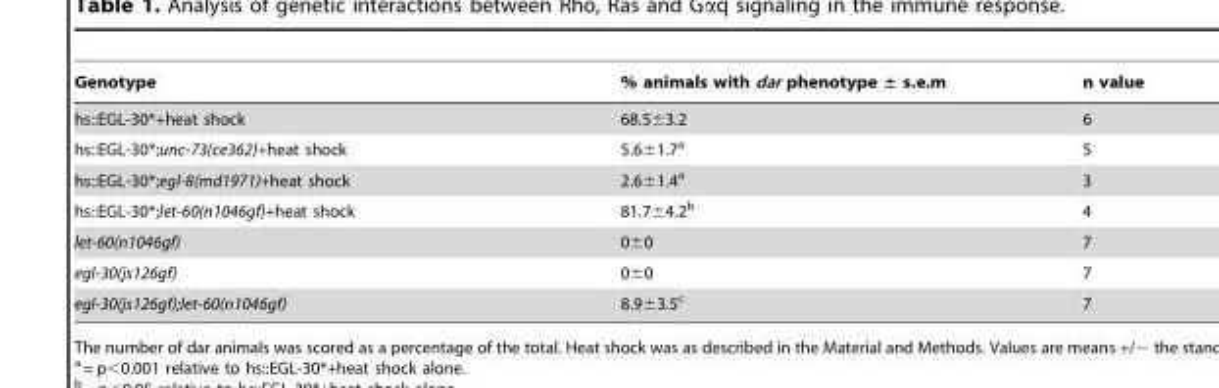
<table><thead><tr><td>Genotype</td><td>% animals with dar phenotype ± s.e.m</td><td>n value</td></tr></thead><tbody><tr><td>hs::EGL-30*+heat shock</td><td>68.5±3.2</td><td>6</td></tr><tr><td>hs::EGL-30*;unc-73(ce362)+heat shock</td><td>5.6±1.7<sup>a</sup></td><td>5</td></tr><tr><td>hs::EGL-30*;egl-8(md1971)+heat shock</td><td>2.6±1.4<sup>a</sup></td><td>3</td></tr><tr><td>hs::EGL-30*;let-60(n1046gf)+heat shock</td><td>81.7±4.2<sup>b</sup></td><td>4</td></tr><tr><td>let-60(n1046gf)</td><td>0±0</td><td>7</td></tr><tr><td>egl-30(js126gf)</td><td>0±0</td><td>7</td></tr><tr><td>egl-30(js126gf);let-60(n1046gf)</td><td>8.9±3.5<sup>c</sup></td><td>7</td></tr></tbody></table>